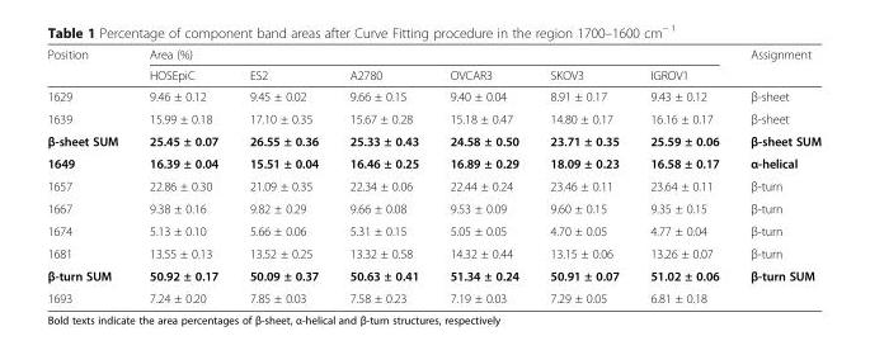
<table><thead><tr><td rowspan="2">Position</td><td colspan="6">Area (%)</td><td rowspan="2">Assignment</td></tr><tr><td>HOSEpiC</td><td>ES2</td><td>A2780</td><td>OVCAR3</td><td>SKOV3</td><td>IGROV1</td></tr></thead><tbody><tr><td>1629</td><td>9.46 ± 0.12</td><td>9.45 ± 0.02</td><td>9.66 ± 0.15</td><td>9.40 ± 0.04</td><td>8.91 ± 0.17</td><td>9.43 ± 0.12</td><td>β-sheet</td></tr><tr><td>1639</td><td>15.99 ± 0.18</td><td>17.10 ± 0.35</td><td>15.67 ± 0.28</td><td>15.18 ± 0.47</td><td>14.80 ± 0.17</td><td>16.16 ± 0.17</td><td>β-sheet</td></tr><tr><td>β-sheet SUM</td><td>25.45 ± 0.07</td><td>26.55 ± 0.36</td><td>25.33 ± 0.43</td><td>24.58 ± 0.50</td><td>23.71 ± 0.35</td><td>25.59 ± 0.06</td><td>β-sheet SUM</td></tr><tr><td>1649</td><td>16.39 ± 0.04</td><td>15.51 ± 0.04</td><td>16.46 ± 0.25</td><td>16.89 ± 0.29</td><td>18.09 ± 0.23</td><td>16.58 ± 0.17</td><td>α-helical</td></tr><tr><td>1657</td><td>22.86 ± 0.30</td><td>21.09 ± 0.35</td><td>22.34 ± 0.06</td><td>22.44 ± 0.24</td><td>23.46 ± 0.11</td><td>23.64 ± 0.11</td><td>β-turn</td></tr><tr><td>1667</td><td>9.38 ± 0.16</td><td>9.82 ± 0.29</td><td>9.66 ± 0.08</td><td>9.53 ± 0.09</td><td>9.60 ± 0.15</td><td>9.35 ± 0.15</td><td>β-turn</td></tr><tr><td>1674</td><td>5.13 ± 0.10</td><td>5.66 ± 0.06</td><td>5.31 ± 0.15</td><td>5.05 ± 0.05</td><td>4.70 ± 0.05</td><td>4.77 ± 0.04</td><td>β-turn</td></tr><tr><td>1681</td><td>13.55 ± 0.13</td><td>13.52 ± 0.25</td><td>13.32 ± 0.58</td><td>14.32 ± 0.44</td><td>13.15 ± 0.06</td><td>13.26 ± 0.07</td><td>β-turn</td></tr><tr><td>β-turn SUM</td><td>50.92 ± 0.17</td><td>50.09 ± 0.37</td><td>50.63 ± 0.41</td><td>51.34 ± 0.24</td><td>50.91 ± 0.07</td><td>51.02 ± 0.06</td><td>β-turn SUM</td></tr><tr><td>1693</td><td>7.24 ± 0.20</td><td>7.85 ± 0.03</td><td>7.58 ± 0.23</td><td>7.19 ± 0.03</td><td>7.29 ± 0.05</td><td>6.81 ± 0.18</td><td></td></tr></tbody></table>